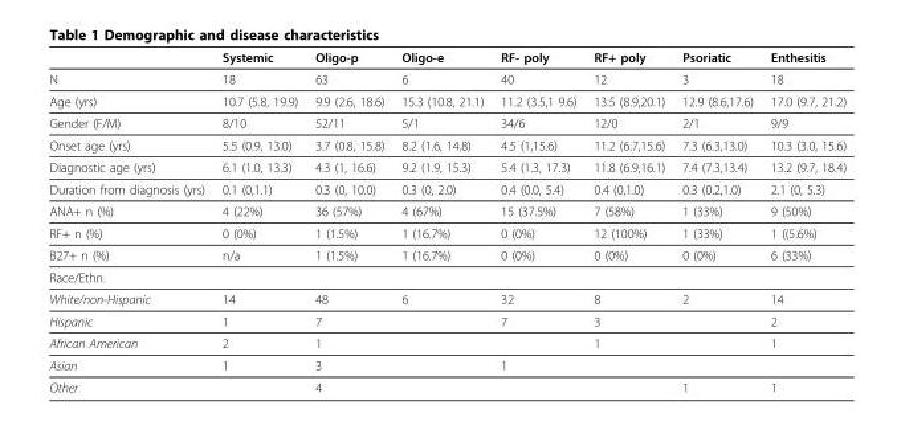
<table><thead><tr><td></td><td>Systemic</td><td>Oligo-p</td><td>Oligo-e</td><td>RF- poly</td><td>RF+ poly</td><td>Psoriatic</td><td>Enthesitis</td></tr></thead><tbody><tr><td>N</td><td>18</td><td>63</td><td>6</td><td>40</td><td>12</td><td>3</td><td>18</td></tr><tr><td>Age (yrs)</td><td>10.7 (5.8, 19.9)</td><td>9.9 (2.6, 18.6)</td><td>15.3 (10.8, 21.1)</td><td>11.2 (3.5,1 9.6)</td><td>13.5 (8.9,20.1)</td><td>12.9 (8.6,17.6)</td><td>17.0 (9.7, 21.2)</td></tr><tr><td>Gender (F/M)</td><td>8/10</td><td>52/11</td><td>5/1</td><td>34/6</td><td>12/0</td><td>2/1</td><td>9/9</td></tr><tr><td>Onset age (yrs)</td><td>5.5 (0.9, 13.0)</td><td>3.7 (0.8, 15.8)</td><td>8.2 (1.6, 14.8)</td><td>4.5 (1,15.6)</td><td>11.2 (6.7,15.6)</td><td>7.3 (6.3,13.0)</td><td>10.3 (3.0, 15.6)</td></tr><tr><td>Diagnostic age (yrs)</td><td>6.1 (1.0, 13.3)</td><td>4.3 (1, 16.6)</td><td>9.2 (1.9, 15.3)</td><td>5.4 (1.3, 17.3)</td><td>11.8 (6.9,16.1)</td><td>7.4 (7.3,13.4)</td><td>13.2 (9.7, 18.4)</td></tr><tr><td>Duration from diagnosis (yrs)</td><td>0.1 (0,1.1)</td><td>0.3 (0, 10.0)</td><td>0.3 (0, 2.0)</td><td>0.4 (0.0, 5.4)</td><td>0.4 (0,1.0)</td><td>0.3 (0.2,1.0)</td><td>2.1 (0, 5.3)</td></tr><tr><td>ANA+ n (%)</td><td>4 (22%)</td><td>36 (57%)</td><td>4 (67%)</td><td>15 (37.5%)</td><td>7 (58%)</td><td>1 (33%)</td><td>9 (50%)</td></tr><tr><td>RF+ n (%)</td><td>0 (0%)</td><td>1 (1.5%)</td><td>1 (16.7%)</td><td>0 (0%)</td><td>12 (100%)</td><td>1 (33%)</td><td>1 ((5.6%)</td></tr><tr><td>B27+ n (%)</td><td>n/a</td><td>1 (1.5%)</td><td>1 (16.7%)</td><td>0 (0%)</td><td>0 (0%)</td><td>0 (0%)</td><td>6 (33%)</td></tr><tr><td colspan="8">Race/Ethn.</td></tr><tr><td>White/non-Hispanic</td><td>14</td><td>48</td><td>6</td><td>32</td><td>8</td><td>2</td><td>14</td></tr><tr><td>Hispanic</td><td>1</td><td>7</td><td></td><td>7</td><td>3</td><td></td><td>2</td></tr><tr><td>African American</td><td>2</td><td>1</td><td></td><td></td><td>1</td><td></td><td>1</td></tr><tr><td>Asian</td><td>1</td><td>3</td><td></td><td>1</td><td></td><td></td><td></td></tr><tr><td>Other</td><td></td><td>4</td><td></td><td></td><td></td><td>1</td><td>1</td></tr></tbody></table>